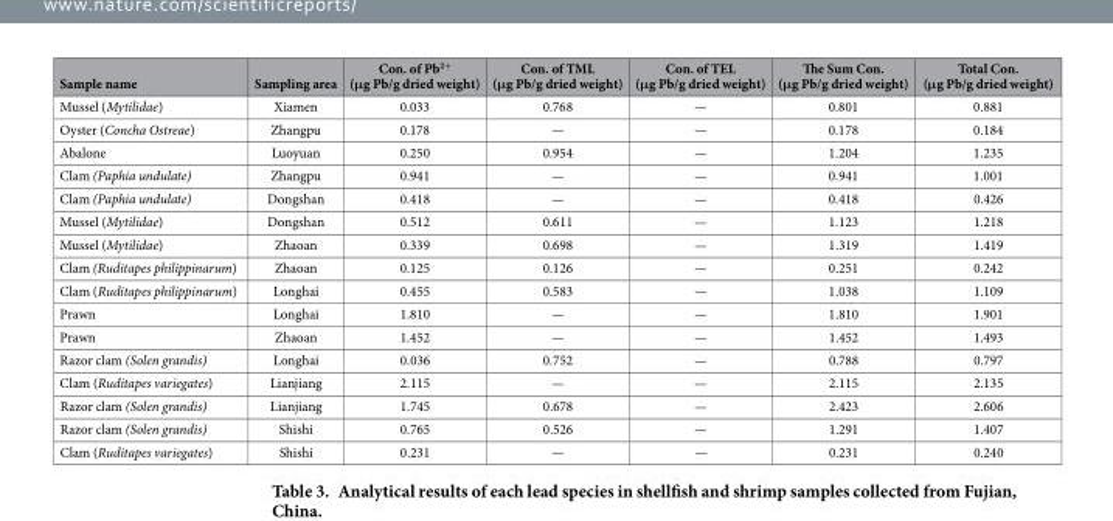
<table><thead><tr><td>Sample name</td><td>Sampling area</td><td>Con. of Pb<sup>2+</sup> (μg Pb/g dried weight)</td><td>Con. of TML (μg Pb/g dried weight)</td><td>Con. of TEL (μg Pb/g dried weight)</td><td>The Sum Con. (μg Pb/g dried weight)</td><td>Total Con. (μg Pb/g dried weight)</td></tr></thead><tbody><tr><td>Mussel (Mytilidae)</td><td>Xiamen</td><td>0.033</td><td>0.768</td><td>—</td><td>0.801</td><td>0.881</td></tr><tr><td>Oyster (Concha Ostreae)</td><td>Zhangpu</td><td>0.178</td><td>—</td><td>—</td><td>0.178</td><td>0.184</td></tr><tr><td>Abalone</td><td>Luoyuan</td><td>0.250</td><td>0.954</td><td>—</td><td>1.204</td><td>1.235</td></tr><tr><td>Clam (Paphia undulate)</td><td>Zhangpu</td><td>0.941</td><td>—</td><td>—</td><td>0.941</td><td>1.001</td></tr><tr><td>Clam (Paphia undulate)</td><td>Dongshan</td><td>0.418</td><td>—</td><td>—</td><td>0.418</td><td>0.426</td></tr><tr><td>Mussel (Mytilidae)</td><td>Dongshan</td><td>0.512</td><td>0.611</td><td>—</td><td>1.123</td><td>1.218</td></tr><tr><td>Mussel (Mytilidae)</td><td>Zhaoan</td><td>0.339</td><td>0.698</td><td>—</td><td>1.319</td><td>1.419</td></tr><tr><td>Clam (Ruditapes philippinarum)</td><td>Zhaoan</td><td>0.125</td><td>0.126</td><td>—</td><td>0.251</td><td>0.242</td></tr><tr><td>Clam (Ruditapes philippinarum)</td><td>Longhai</td><td>0.455</td><td>0.583</td><td>—</td><td>1.038</td><td>1.109</td></tr><tr><td>Prawn</td><td>Longhai</td><td>1.810</td><td>—</td><td>—</td><td>1.810</td><td>1.901</td></tr><tr><td>Prawn</td><td>Zhaoan</td><td>1.452</td><td>—</td><td>—</td><td>1.452</td><td>1.493</td></tr><tr><td>Razor clam (Solen grandis)</td><td>Longhai</td><td>0.036</td><td>0.752</td><td>—</td><td>0.788</td><td>0.797</td></tr><tr><td>Clam (Ruditapes variegates)</td><td>Lianjiang</td><td>2.115</td><td>—</td><td>—</td><td>2.115</td><td>2.135</td></tr><tr><td>Razor clam (Solen grandis)</td><td>Lianjiang</td><td>1.745</td><td>0.678</td><td>—</td><td>2.423</td><td>2.606</td></tr><tr><td>Razor clam (Solen grandis)</td><td>Shishi</td><td>0.765</td><td>0.526</td><td>—</td><td>1.291</td><td>1.407</td></tr><tr><td>Clam (Ruditapes variegates)</td><td>Shishi</td><td>0.231</td><td>—</td><td>—</td><td>0.231</td><td>0.240</td></tr></tbody></table>